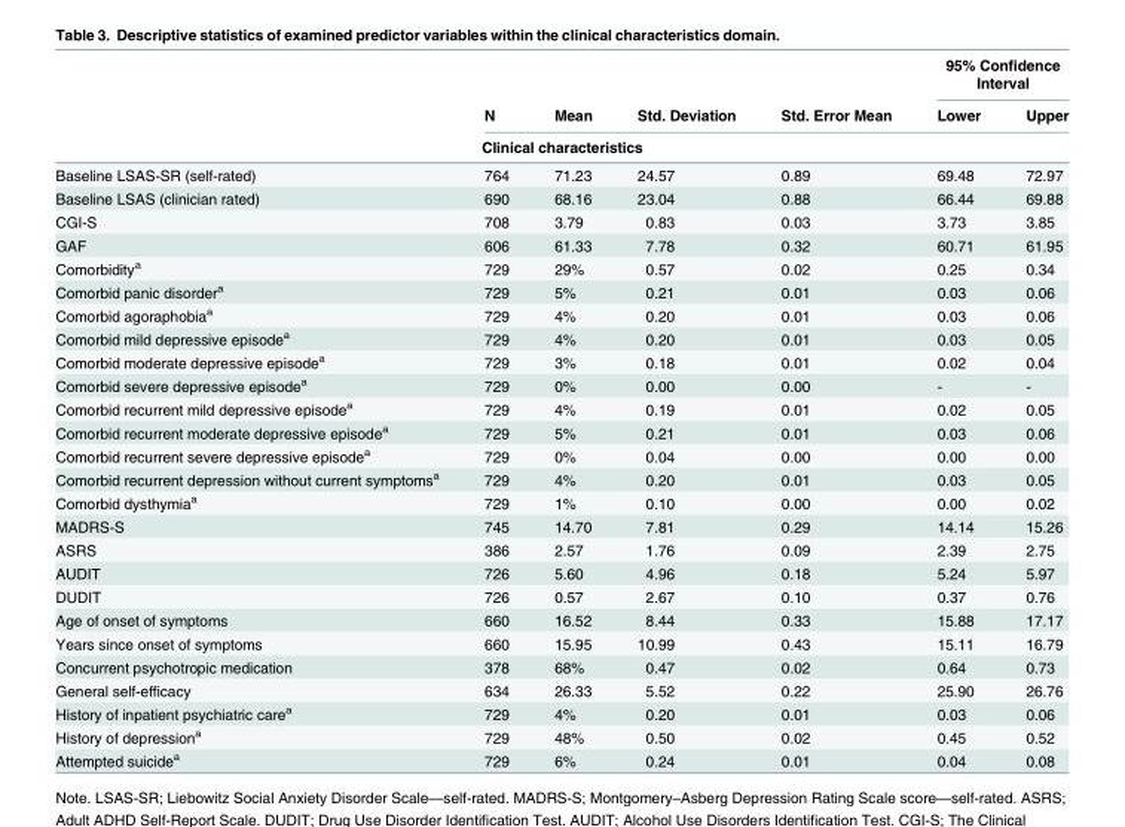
<table><thead><tr><td rowspan="2"></td><td rowspan="2">N</td><td rowspan="2">Mean</td><td rowspan="2">Std. Deviation</td><td rowspan="2">Std. Error Mean</td><td colspan="2">95% Confidence Interval</td></tr><tr><td>Lower</td><td>Upper</td></tr><tr><td colspan="7">Clinical characteristics</td></tr></thead><tbody><tr><td>Baseline LSAS-SR (self-rated)</td><td>764</td><td>71.23</td><td>24.57</td><td>0.89</td><td>69.48</td><td>72.97</td></tr><tr><td>Baseline LSAS (clinician rated)</td><td>690</td><td>68.16</td><td>23.04</td><td>0.88</td><td>66.44</td><td>69.88</td></tr><tr><td>CGI-S</td><td>708</td><td>3.79</td><td>0.83</td><td>0.03</td><td>3.73</td><td>3.85</td></tr><tr><td>GAF</td><td>606</td><td>61.33</td><td>7.78</td><td>0.32</td><td>60.71</td><td>61.95</td></tr><tr><td>Comorbidity<sup>a</sup></td><td>729</td><td>29%</td><td>0.57</td><td>0.02</td><td>0.25</td><td>0.34</td></tr><tr><td>Comorbid panic disorder<sup>a</sup></td><td>729</td><td>5%</td><td>0.21</td><td>0.01</td><td>0.03</td><td>0.06</td></tr><tr><td>Comorbid agoraphobia<sup>a</sup></td><td>729</td><td>4%</td><td>0.20</td><td>0.01</td><td>0.03</td><td>0.06</td></tr><tr><td>Comorbid mild depressive episode<sup>a</sup></td><td>729</td><td>4%</td><td>0.20</td><td>0.01</td><td>0.03</td><td>0.05</td></tr><tr><td>Comorbid moderate depressive episode<sup>a</sup></td><td>729</td><td>3%</td><td>0.18</td><td>0.01</td><td>0.02</td><td>0.04</td></tr><tr><td>Comorbid severe depressive episode<sup>a</sup></td><td>729</td><td>0%</td><td>0.00</td><td>0.00</td><td>-</td><td>-</td></tr><tr><td>Comorbid recurrent mild depressive episode<sup>a</sup></td><td>729</td><td>4%</td><td>0.19</td><td>0.01</td><td>0.02</td><td>0.05</td></tr><tr><td>Comorbid recurrent moderate depressive episode<sup>a</sup></td><td>729</td><td>5%</td><td>0.21</td><td>0.01</td><td>0.03</td><td>0.06</td></tr><tr><td>Comorbid recurrent severe depressive episode<sup>a</sup></td><td>729</td><td>0%</td><td>0.04</td><td>0.00</td><td>0.00</td><td>0.00</td></tr><tr><td>Comorbid recurrent depression without current symptoms<sup>a</sup></td><td>729</td><td>4%</td><td>0.20</td><td>0.01</td><td>0.03</td><td>0.05</td></tr><tr><td>Comorbid dysthymia<sup>a</sup></td><td>729</td><td>1%</td><td>0.10</td><td>0.00</td><td>0.00</td><td>0.02</td></tr><tr><td>MADRS-S</td><td>745</td><td>14.70</td><td>7.81</td><td>0.29</td><td>14.14</td><td>15.26</td></tr><tr><td>ASRS</td><td>386</td><td>2.57</td><td>1.76</td><td>0.09</td><td>2.39</td><td>2.75</td></tr><tr><td>AUDIT</td><td>726</td><td>5.60</td><td>4.96</td><td>0.18</td><td>5.24</td><td>5.97</td></tr><tr><td>DUDIT</td><td>726</td><td>0.57</td><td>2.67</td><td>0.10</td><td>0.37</td><td>0.76</td></tr><tr><td>Age of onset of symptoms</td><td>660</td><td>16.52</td><td>8.44</td><td>0.33</td><td>15.88</td><td>17.17</td></tr><tr><td>Years since onset of symptoms</td><td>660</td><td>15.95</td><td>10.99</td><td>0.43</td><td>15.11</td><td>16.79</td></tr><tr><td>Concurrent psychotropic medication</td><td>378</td><td>68%</td><td>0.47</td><td>0.02</td><td>0.64</td><td>0.73</td></tr><tr><td>General self-efficacy</td><td>634</td><td>26.33</td><td>5.52</td><td>0.22</td><td>25.90</td><td>26.76</td></tr><tr><td>History of inpatient psychiatric care<sup>a</sup></td><td>729</td><td>4%</td><td>0.20</td><td>0.01</td><td>0.03</td><td>0.06</td></tr><tr><td>History of depression<sup>a</sup></td><td>729</td><td>48%</td><td>0.50</td><td>0.02</td><td>0.45</td><td>0.52</td></tr><tr><td>Attempted suicide<sup>a</sup></td><td>729</td><td>6%</td><td>0.24</td><td>0.01</td><td>0.04</td><td>0.08</td></tr></tbody></table>